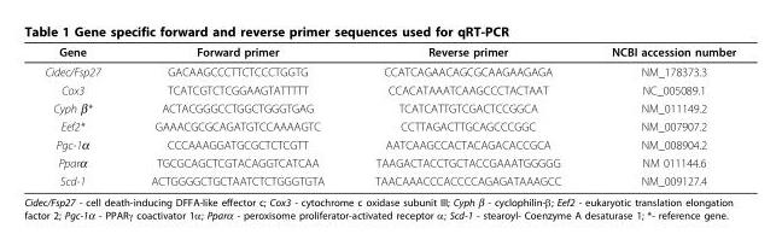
<table><thead><tr><td>Gene</td><td>Forward primer</td><td>Reverse primer</td><td>NCBI accession number</td></tr></thead><tbody><tr><td>Cidec/Fsp27</td><td>GACAAGCCCTTCTCCCTGGTG</td><td>CCATCAGAACAGCGCAAGAAGAGA</td><td>NM_178373.3</td></tr><tr><td>Cox3</td><td>TCATCGTCTCGGAAGTATTTTT</td><td>CCACATAAATCAAGCCCTACTAAT</td><td>NC_005089.1</td></tr><tr><td>Cyph β*</td><td>ACTACGGGCCTGGCTGGGTGAG</td><td>TCATCATTGTCGACTCCGGCA</td><td>NM_011149.2</td></tr><tr><td>Eef2*</td><td>GAAACGCGCAGATGTCCAAAAGTC</td><td>CCTTAGACTTGCAGCCCGGC</td><td>NM_007907.2</td></tr><tr><td>Pgc-1α</td><td>CCCAAAGGATGCGCTCTCGTT</td><td>AATCAAGCCACTACAGACACCGCA</td><td>NM_008904.2</td></tr><tr><td>Pparα</td><td>TGCGCAGCTCGTACAGGTCATCAA</td><td>TAAGACTACCTGCTACCGAAATGGGGG</td><td>NM 011144.6</td></tr><tr><td>Scd-1</td><td>ACTGGGGCTGCTAATCTCTGGGTGTA</td><td>TAACAAACCCACCCCAGAGATAAAGCC</td><td>NM_009127.4</td></tr></tbody></table>